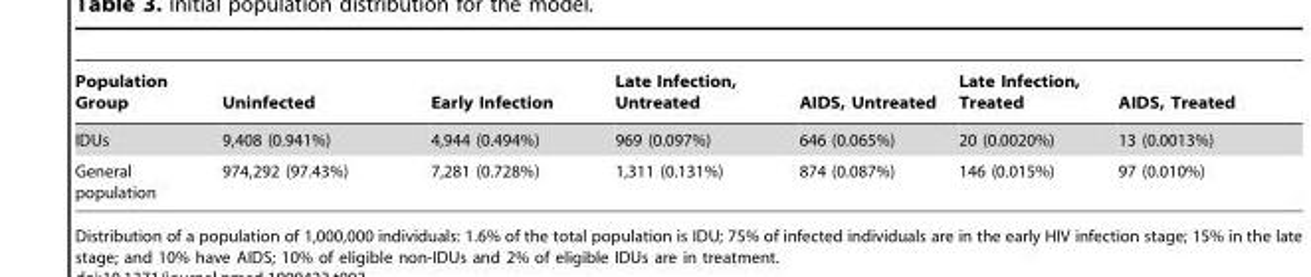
<table><thead><tr><td>Population Group</td><td>Uninfected</td><td>Early Infection</td><td>Late Infection, Untreated</td><td>AIDS, Untreated</td><td>Late Infection, Treated</td><td>AIDS, Treated</td></tr></thead><tbody><tr><td>IDUs</td><td>9,408 (0.941%)</td><td>4,944 (0.494%)</td><td>969 (0.097%)</td><td>646 (0.065%)</td><td>20 (0.0020%)</td><td>13 (0.0013%)</td></tr><tr><td>General population</td><td>974,292 (97.43%)</td><td>7,281 (0.728%)</td><td>1,311 (0.131%)</td><td>874 (0.087%)</td><td>146 (0.015%)</td><td>97 (0.010%)</td></tr></tbody></table>